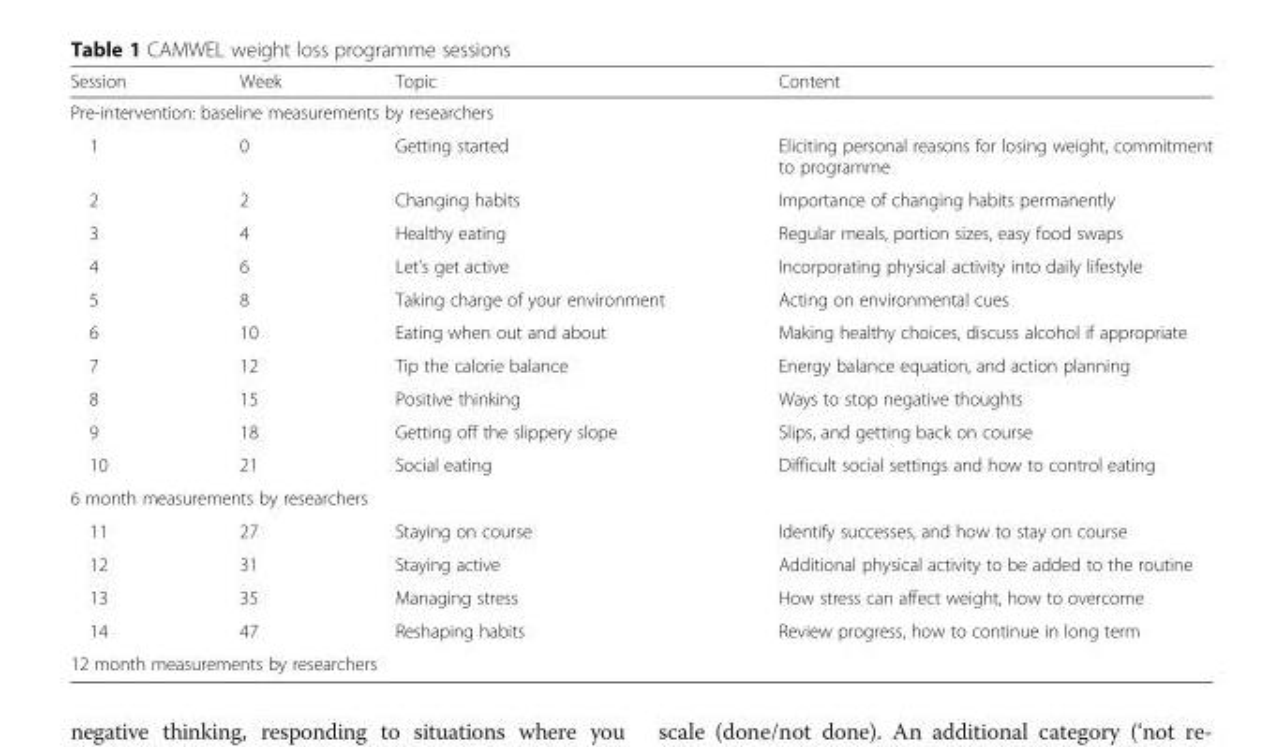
<table><thead><tr><td>Session</td><td>Week</td><td>Topic</td><td>Content</td></tr></thead><tbody><tr><td colspan="4">Pre-intervention: baseline measurements by researchers</td></tr><tr><td>1</td><td>0</td><td>Getting started</td><td>Eliciting personal reasons for losing weight, commitment to programme</td></tr><tr><td>2</td><td>2</td><td>Changing habits</td><td>Importance of changing habits permanently</td></tr><tr><td>3</td><td>4</td><td>Healthy eating</td><td>Regular meals, portion sizes, easy food swaps</td></tr><tr><td>4</td><td>6</td><td>Let’s get active</td><td>Incorporating physical activity into daily lifestyle</td></tr><tr><td>5</td><td>8</td><td>Taking charge of your environment</td><td>Acting on environmental cues</td></tr><tr><td>6</td><td>10</td><td>Eating when out and about</td><td>Making healthy choices, discuss alcohol if appropriate</td></tr><tr><td>7</td><td>12</td><td>Tip the calorie balance</td><td>Energy balance equation, and action planning</td></tr><tr><td>8</td><td>15</td><td>Positive thinking</td><td>Ways to stop negative thoughts</td></tr><tr><td>9</td><td>18</td><td>Getting off the slippery slope</td><td>Slips, and getting back on course</td></tr><tr><td>10</td><td>21</td><td>Social eating</td><td>Difficult social settings and how to control eating</td></tr><tr><td colspan="4">6 month measurements by researchers</td></tr><tr><td>11</td><td>27</td><td>Staying on course</td><td>Identify successes, and how to stay on course</td></tr><tr><td>12</td><td>31</td><td>Staying active</td><td>Additional physical activity to be added to the routine</td></tr><tr><td>13</td><td>35</td><td>Managing stress</td><td>How stress can affect weight, how to overcome</td></tr><tr><td>14</td><td>47</td><td>Reshaping habits</td><td>Review progress, how to continue in long term</td></tr><tr><td colspan="4">12 month measurements by researchers</td></tr></tbody></table>